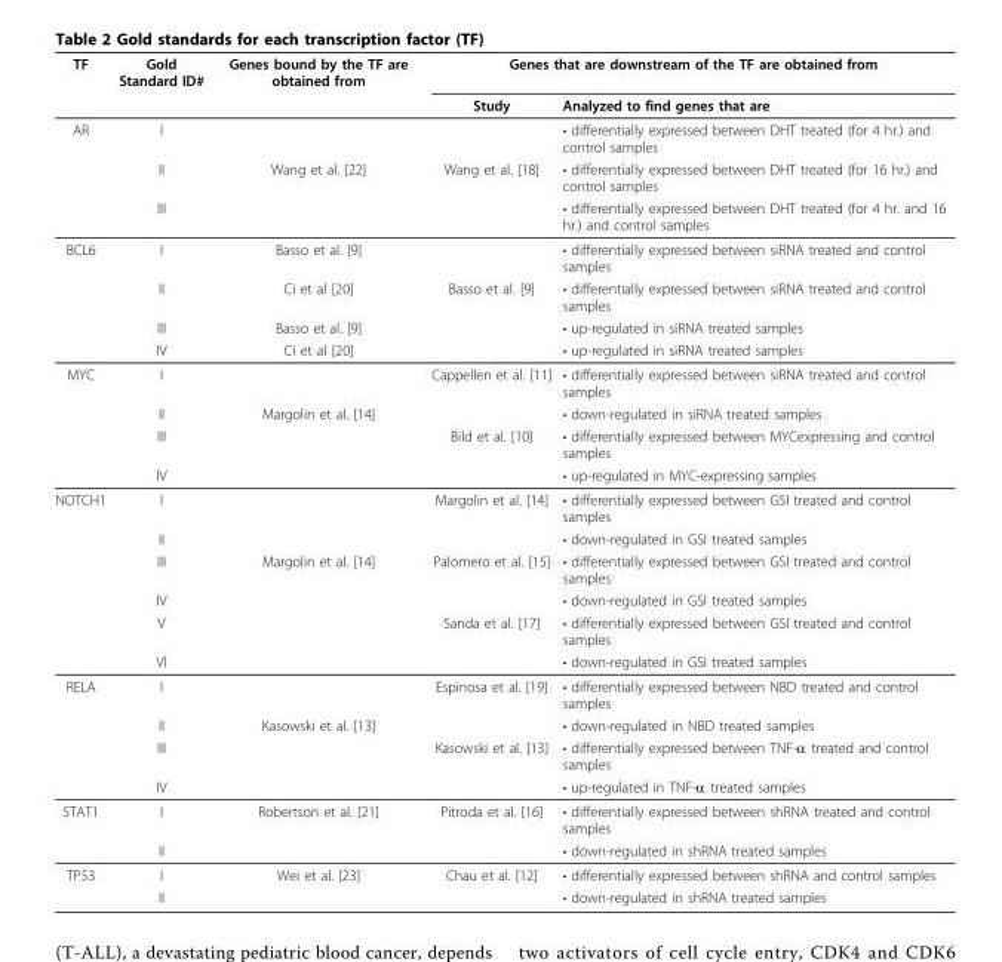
<table><thead><tr><td rowspan="2">TF</td><td rowspan="2">Gold Standard ID#</td><td rowspan="2">Genes bound by the TF are obtained from</td><td colspan="2">Genes that are downstream of the TF are obtained from</td></tr><tr><td>Study</td><td>Analyzed to find genes that are</td></tr></thead><tbody><tr><td rowspan="3">AR</td><td>I</td><td></td><td></td><td>• differentially expressed between DHT treated (for 4 hr.) and control samples</td></tr><tr><td>II</td><td>Wang et al. [22]</td><td>Wang et al. [18]</td><td>• differentially expressed between DHT treated (for 16 hr.) and control samples</td></tr><tr><td>III</td><td></td><td></td><td>• differentially expressed between DHT treated (for 4 hr. and 16 hr.) and control samples</td></tr><tr><td rowspan="4">BCL6</td><td>I</td><td>Basso et al. [9]</td><td></td><td>• differentially expressed between siRNA treated and control samples</td></tr><tr><td>II</td><td>Ci et al [20]</td><td>Basso et al. [9]</td><td>• differentially expressed between siRNA treated and control samples</td></tr><tr><td>III</td><td>Basso et al. [9]</td><td></td><td>• up-regulated in siRNA treated samples</td></tr><tr><td>IV</td><td>Ci et al [20]</td><td></td><td>• up-regulated in siRNA treated samples</td></tr><tr><td rowspan="4">MYC</td><td>I</td><td></td><td>Cappellen et al. [11]</td><td>• differentially expressed between siRNA treated and control samples</td></tr><tr><td>II</td><td>Margolin et al. [14]</td><td></td><td>• down-regulated in siRNA treated samples</td></tr><tr><td>III</td><td></td><td>Bild et al. [10]</td><td>• differentially expressed between MYCexpressing and control samples</td></tr><tr><td>IV</td><td></td><td></td><td>• up-regulated in MYC-expressing samples</td></tr><tr><td rowspan="6">NOTCH1</td><td>I</td><td></td><td>Margolin et al. [14]</td><td>• differentially expressed between GSI treated and control samples</td></tr><tr><td>II</td><td></td><td></td><td>• down-regulated in GSI treated samples</td></tr><tr><td>III</td><td>Margolin et al. [14]</td><td>Palomero et al. [15]</td><td>• differentially expressed between GSI treated and control samples</td></tr><tr><td>IV</td><td></td><td></td><td>• down-regulated in GSI treated samples</td></tr><tr><td>V</td><td></td><td>Sanda et al. [17]</td><td>• differentially expressed between GSI treated and control samples</td></tr><tr><td>VI</td><td></td><td></td><td>• down-regulated in GSI treated samples</td></tr><tr><td rowspan="4">RELA</td><td>I</td><td></td><td>Espinosa et al. [19]</td><td>• differentially expressed between NBD treated and control samples</td></tr><tr><td>II</td><td>Kasowski et al. [13]</td><td></td><td>• down-regulated in NBD treated samples</td></tr><tr><td>III</td><td></td><td>Kasowski et al. [13]</td><td>• differentially expressed between TNF-α treated and control samples</td></tr><tr><td>IV</td><td></td><td></td><td>• up-regulated in TNF-α treated samples</td></tr><tr><td rowspan="2">STAT1</td><td>I</td><td>Robertson et al. [21]</td><td>Pitroda et al. [16]</td><td>• differentially expressed between shRNA treated and control samples</td></tr><tr><td>II</td><td></td><td></td><td>• down-regulated in shRNA treated samples</td></tr><tr><td rowspan="2">TP53</td><td>I</td><td>Wei et al. [23]</td><td>Chau et al. [12]</td><td>• differentially expressed between shRNA and control samples</td></tr><tr><td>II</td><td></td><td></td><td>• down-regulated in shRNA treated samples</td></tr></tbody></table>